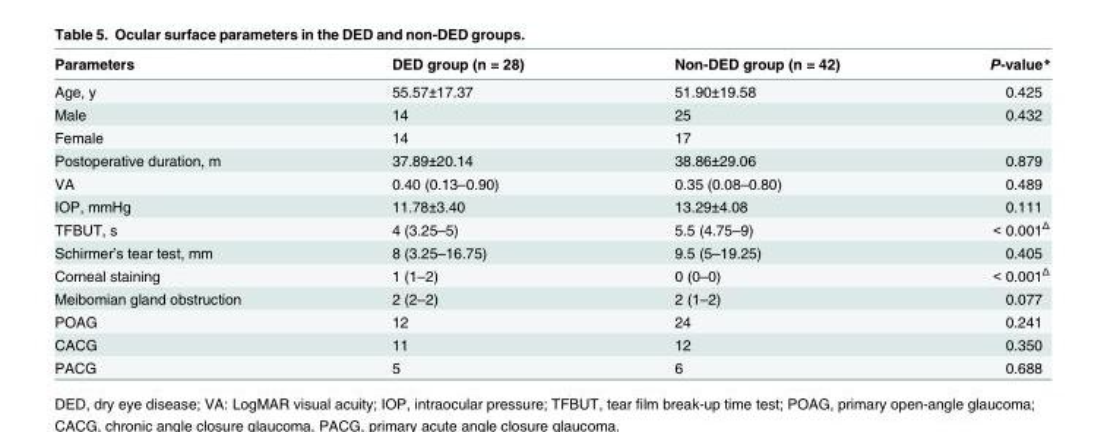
<table><thead><tr><td>Parameters</td><td>DED group (n = 28)</td><td>Non-DED group (n = 42)</td><td>P-value*</td></tr></thead><tbody><tr><td>Age, y</td><td>55.57±17.37</td><td>51.90±19.58</td><td>0.425</td></tr><tr><td>Male</td><td>14</td><td>25</td><td>0.432</td></tr><tr><td>Female</td><td>14</td><td>17</td><td></td></tr><tr><td>Postoperative duration, m</td><td>37.89±20.14</td><td>38.86±29.06</td><td>0.879</td></tr><tr><td>VA</td><td>0.40 (0.13–0.90)</td><td>0.35 (0.08–0.80)</td><td>0.489</td></tr><tr><td>IOP, mmHg</td><td>11.78±3.40</td><td>13.29±4.08</td><td>0.111</td></tr><tr><td>TFBUT, s</td><td>4 (3.25–5)</td><td>5.5 (4.75–9)</td><td>&lt; 0.001<sup>Δ</sup></td></tr><tr><td>Schirmer’s tear test, mm</td><td>8 (3.25–16.75)</td><td>9.5 (5–19.25)</td><td>0.405</td></tr><tr><td>Corneal staining</td><td>1 (1–2)</td><td>0 (0–0)</td><td>&lt; 0.001<sup>Δ</sup></td></tr><tr><td>Meibomian gland obstruction</td><td>2 (2–2)</td><td>2 (1–2)</td><td>0.077</td></tr><tr><td>POAG</td><td>12</td><td>24</td><td>0.241</td></tr><tr><td>CACG</td><td>11</td><td>12</td><td>0.350</td></tr><tr><td>PACG</td><td>5</td><td>6</td><td>0.688</td></tr></tbody></table>